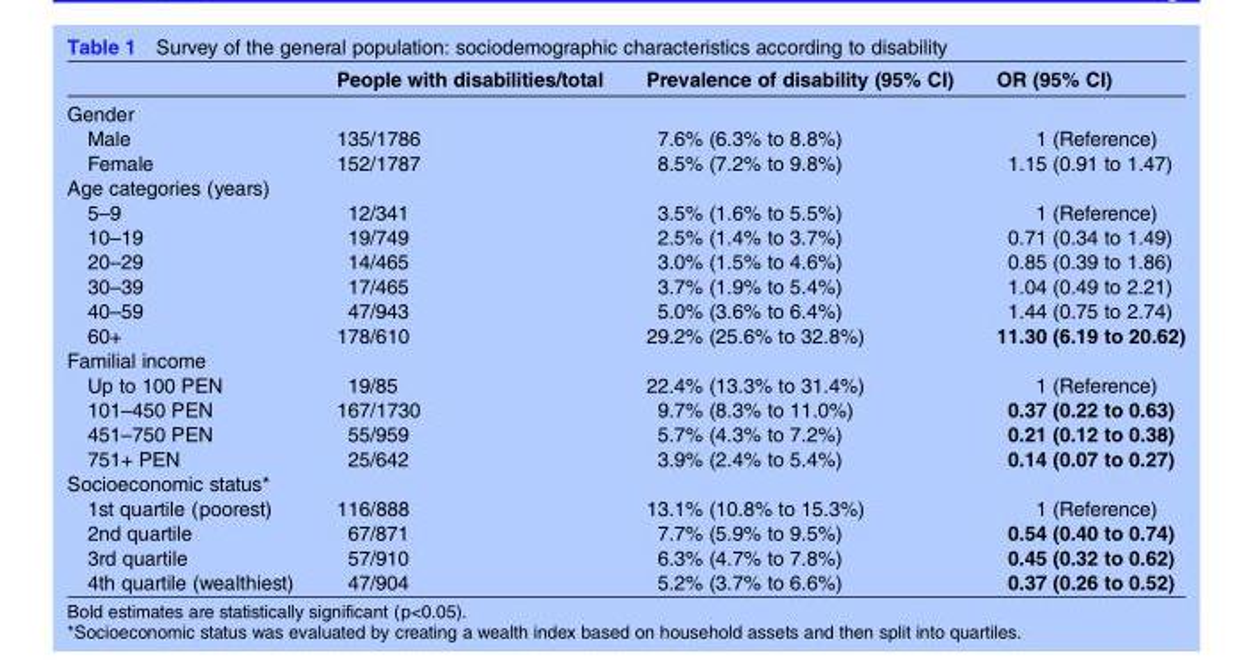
<table><thead><tr><td></td><td>People with disabilities/total</td><td>Prevalence of disability (95% CI)</td><td>OR (95% CI)</td></tr></thead><tbody><tr><td colspan="4">Gender</td></tr><tr><td>Male</td><td>135/1786</td><td>7.6% (6.3% to 8.8%)</td><td>1 (Reference)</td></tr><tr><td>Female</td><td>152/1787</td><td>8.5% (7.2% to 9.8%)</td><td>1.15 (0.91 to 1.47)</td></tr><tr><td colspan="4">Age categories (years)</td></tr><tr><td>5–9</td><td>12/341</td><td>3.5% (1.6% to 5.5%)</td><td>1 (Reference)</td></tr><tr><td>10–19</td><td>19/749</td><td>2.5% (1.4% to 3.7%)</td><td>0.71 (0.34 to 1.49)</td></tr><tr><td>20–29</td><td>14/465</td><td>3.0% (1.5% to 4.6%)</td><td>0.85 (0.39 to 1.86)</td></tr><tr><td>30–39</td><td>17/465</td><td>3.7% (1.9% to 5.4%)</td><td>1.04 (0.49 to 2.21)</td></tr><tr><td>40–59</td><td>47/943</td><td>5.0% (3.6% to 6.4%)</td><td>1.44 (0.75 to 2.74)</td></tr><tr><td>60+</td><td>178/610</td><td>29.2% (25.6% to 32.8%)</td><td>11.30 (6.19 to 20.62)</td></tr><tr><td colspan="4">Familial income</td></tr><tr><td>Up to 100 PEN</td><td>19/85</td><td>22.4% (13.3% to 31.4%)</td><td>1 (Reference)</td></tr><tr><td>101–450 PEN</td><td>167/1730</td><td>9.7% (8.3% to 11.0%)</td><td>0.37 (0.22 to 0.63)</td></tr><tr><td>451–750 PEN</td><td>55/959</td><td>5.7% (4.3% to 7.2%)</td><td>0.21 (0.12 to 0.38)</td></tr><tr><td>751+ PEN</td><td>25/642</td><td>3.9% (2.4% to 5.4%)</td><td>0.14 (0.07 to 0.27)</td></tr><tr><td colspan="4">Socioeconomic status*</td></tr><tr><td>1st quartile (poorest)</td><td>116/888</td><td>13.1% (10.8% to 15.3%)</td><td>1 (Reference)</td></tr><tr><td>2nd quartile</td><td>67/871</td><td>7.7% (5.9% to 9.5%)</td><td>0.54 (0.40 to 0.74)</td></tr><tr><td>3rd quartile</td><td>57/910</td><td>6.3% (4.7% to 7.8%)</td><td>0.45 (0.32 to 0.62)</td></tr><tr><td>4th quartile (wealthiest)</td><td>47/904</td><td>5.2% (3.7% to 6.6%)</td><td>0.37 (0.26 to 0.52)</td></tr></tbody></table>